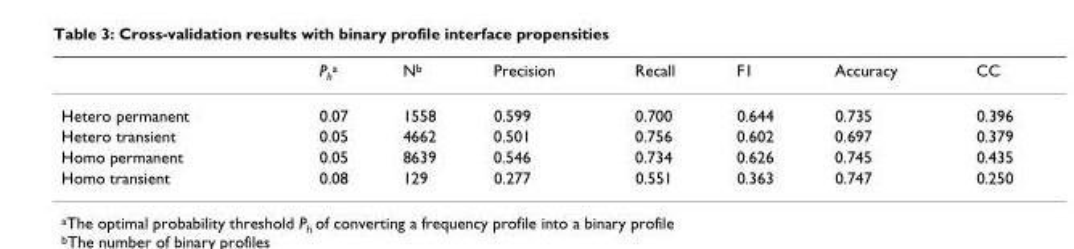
<table><thead><tr><td></td><td>P<sub>h</sub><sup>a</sup></td><td>N<sup>b</sup></td><td>Precision</td><td>Recall</td><td>F1</td><td>Accuracy</td><td>CC</td></tr></thead><tbody><tr><td>Hetero permanent</td><td>0.07</td><td>1558</td><td>0.599</td><td>0.700</td><td>0.644</td><td>0.735</td><td>0.396</td></tr><tr><td>Hetero transient</td><td>0.05</td><td>4662</td><td>0.501</td><td>0.756</td><td>0.602</td><td>0.697</td><td>0.379</td></tr><tr><td>Homo permanent</td><td>0.05</td><td>8639</td><td>0.546</td><td>0.734</td><td>0.626</td><td>0.745</td><td>0.435</td></tr><tr><td>Homo transient</td><td>0.08</td><td>129</td><td>0.277</td><td>0.551</td><td>0.363</td><td>0.747</td><td>0.250</td></tr></tbody></table>